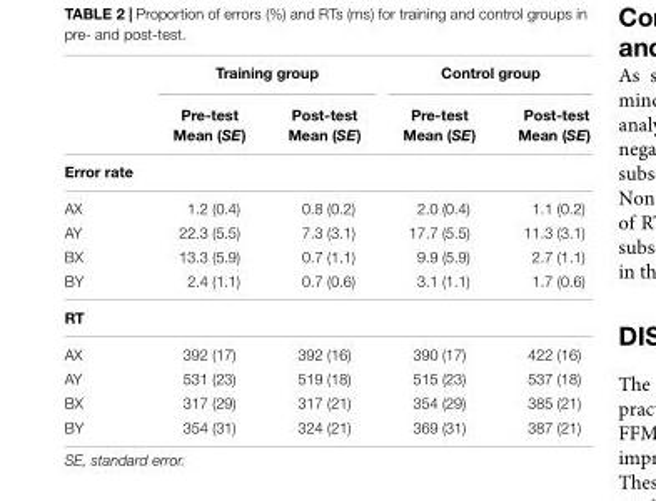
<table><thead><tr><td rowspan="2"></td><td colspan="2">Training group</td><td colspan="2">Control group</td></tr><tr><td>Pre-test Mean (SE)</td><td>Post-test Mean (SE)</td><td>Pre-test Mean (SE)</td><td>Post-test Mean (SE)</td></tr></thead><tbody><tr><td colspan="5">Error rate</td></tr><tr><td>AX</td><td>1.2 (0.4)</td><td>0.8 (0.2)</td><td>2.0 (0.4)</td><td>1.1 (0.2)</td></tr><tr><td>AY</td><td>22.3 (5.5)</td><td>7.3 (3.1)</td><td>17.7 (5.5)</td><td>11.3 (3.1)</td></tr><tr><td>BX</td><td>13.3 (5.9)</td><td>0.7 (1.1)</td><td>9.9 (5.9)</td><td>2.7 (1.1)</td></tr><tr><td>BY</td><td>2.4 (1.1)</td><td>0.7 (0.6)</td><td>3.1 (1.1)</td><td>1.7 (0.6)</td></tr><tr><td colspan="5">RT</td></tr><tr><td>AX</td><td>392 (17)</td><td>392 (16)</td><td>390 (17)</td><td>422 (16)</td></tr><tr><td>AY</td><td>531 (23)</td><td>519 (18)</td><td>515 (23)</td><td>537 (18)</td></tr><tr><td>BX</td><td>317 (29)</td><td>317 (21)</td><td>354 (29)</td><td>385 (21)</td></tr><tr><td>BY</td><td>354 (31)</td><td>324 (21)</td><td>369 (31)</td><td>387 (21)</td></tr></tbody></table>